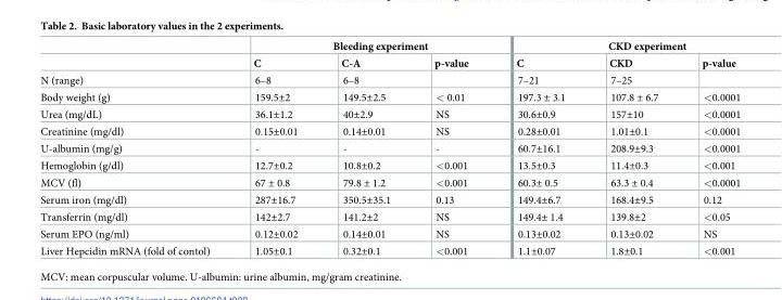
<table><thead><tr><td rowspan="2"></td><td colspan="3">Bleeding experiment</td><td colspan="3">CKD experiment</td></tr><tr><td>C</td><td>C-A</td><td>p-value</td><td>C</td><td>CKD</td><td>p-value</td></tr></thead><tbody><tr><td>N (range)</td><td>6–8</td><td>6–8</td><td></td><td>7–21</td><td>7–25</td><td></td></tr><tr><td>Body weight (g)</td><td>159.5±2</td><td>149.5±2.5</td><td>&lt; 0.01</td><td>197.3 ± 3.1</td><td>107.8 ± 6.7</td><td>&lt;0.0001</td></tr><tr><td>Urea (mg/dL)</td><td>36.1±1.2</td><td>40±2.9</td><td>NS</td><td>30.6±0.9</td><td>157±10</td><td>&lt;0.0001</td></tr><tr><td>Creatinine (mg/dl)</td><td>0.15±0.01</td><td>0.14±0.01</td><td>NS</td><td>0.28±0.01</td><td>1.01±0.1</td><td>&lt;0.0001</td></tr><tr><td>U-albumin (mg/g)</td><td>-</td><td>-</td><td>-</td><td>60.7±16.1</td><td>208.9±9.3</td><td>&lt;0.0001</td></tr><tr><td>Hemoglobin (g/dl)</td><td>12.7±0.2</td><td>10.8±0.2</td><td>&lt;0.001</td><td>13.5±0.3</td><td>11.4±0.3</td><td>&lt;0.001</td></tr><tr><td>MCV (fl)</td><td>67 ± 0.8</td><td>79.8 ± 1.2</td><td>&lt;0.001</td><td>60.3± 0.5</td><td>63.3 ± 0.4</td><td>&lt;0.0001</td></tr><tr><td>Serum iron (mg/dl)</td><td>287±16.7</td><td>350.5±35.1</td><td>0.13</td><td>149.4±6.7</td><td>168.4±9.5</td><td>0.12</td></tr><tr><td>Transferrin (mg/dl)</td><td>142±2.7</td><td>141.2±2</td><td>NS</td><td>149.4± 1.4</td><td>139.8±2</td><td>&lt;0.05</td></tr><tr><td>Serum EPO (ng/ml)</td><td>0.12±0.02</td><td>0.14±0.01</td><td>NS</td><td>0.13±0.02</td><td>0.13±0.02</td><td>NS</td></tr><tr><td>Liver Hepcidin mRNA (fold of contol)</td><td>1.05±0.1</td><td>0.32±0.1</td><td>&lt;0.001</td><td>1.1±0.07</td><td>1.8±0.1</td><td>&lt;0.001</td></tr></tbody></table>